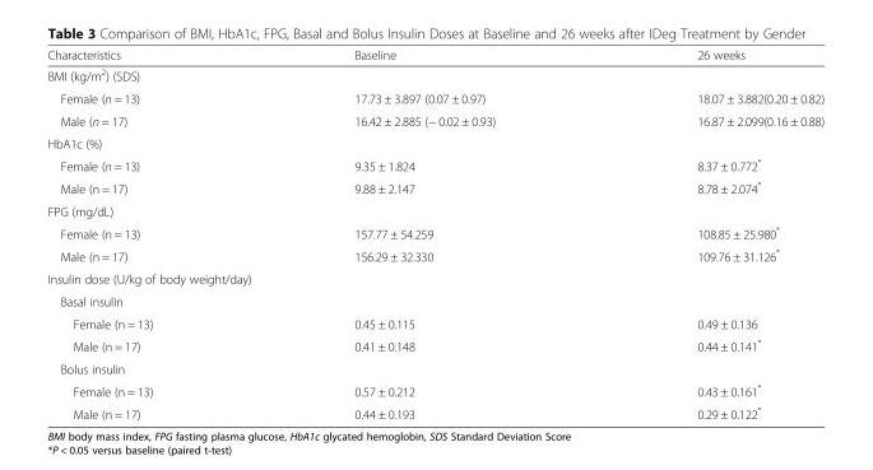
<table><thead><tr><td>Characteristics</td><td>Baseline</td><td>26 weeks</td></tr></thead><tbody><tr><td colspan="3">BMI (kg/m<sup>2</sup>) (SDS)</td></tr><tr><td>Female (n = 13)</td><td>17.73 ± 3.897 (0.07 ± 0.97)</td><td>18.07 ± 3.882(0.20 ± 0.82)</td></tr><tr><td>Male (n = 17)</td><td>16.42 ± 2.885 (− 0.02 ± 0.93)</td><td>16.87 ± 2.099(0.16 ± 0.88)</td></tr><tr><td colspan="3">HbA1c (%)</td></tr><tr><td>Female (n = 13)</td><td>9.35 ± 1.824</td><td>8.37 ± 0.772*</td></tr><tr><td>Male (n = 17)</td><td>9.88 ± 2.147</td><td>8.78 ± 2.074*</td></tr><tr><td colspan="3">FPG (mg/dL)</td></tr><tr><td>Female (n = 13)</td><td>157.77 ± 54.259</td><td>108.85 ± 25.980*</td></tr><tr><td>Male (n = 17)</td><td>156.29 ± 32.330</td><td>109.76 ± 31.126*</td></tr><tr><td colspan="3">Insulin dose (U/kg of body weight/day)</td></tr><tr><td colspan="3">Basal insulin</td></tr><tr><td>Female (n = 13)</td><td>0.45 ± 0.115</td><td>0.49 ± 0.136</td></tr><tr><td>Male (n = 17)</td><td>0.41 ± 0.148</td><td>0.44 ± 0.141*</td></tr><tr><td colspan="3">Bolus insulin</td></tr><tr><td>Female (n = 13)</td><td>0.57 ± 0.212</td><td>0.43 ± 0.161*</td></tr><tr><td>Male (n = 17)</td><td>0.44 ± 0.193</td><td>0.29 ± 0.122*</td></tr></tbody></table>